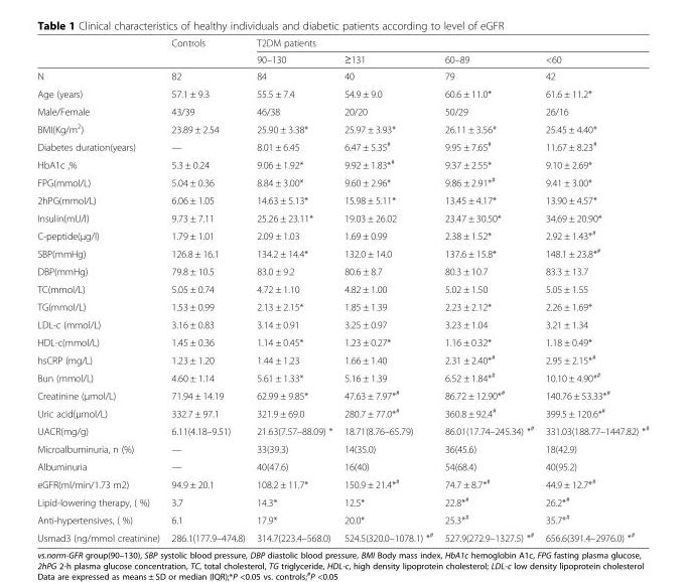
<table><thead><tr><td rowspan="2"></td><td rowspan="2">Controls</td><td colspan="4">T2DM patients</td></tr><tr><td>90–130</td><td>≥131</td><td>60–89</td><td>&lt;60</td></tr></thead><tbody><tr><td>N</td><td>82</td><td>84</td><td>40</td><td>79</td><td>42</td></tr><tr><td>Age (years)</td><td>57.1 ± 9.3</td><td>55.5 ± 7.4</td><td>54.9 ± 9.0</td><td>60.6 ± 11.0*</td><td>61.6 ± 11.2*</td></tr><tr><td>Male/Female</td><td>43/39</td><td>46/38</td><td>20/20</td><td>50/29</td><td>26/16</td></tr><tr><td>BMI(Kg/m<sup>2</sup>)</td><td>23.89 ± 2.54</td><td>25.90 ± 3.38*</td><td>25.97 ± 3.93*</td><td>26.11 ± 3.56*</td><td>25.45 ± 4.40*</td></tr><tr><td>Diabetes duration(years)</td><td>—</td><td>8.01 ± 6.45</td><td>6.47 ± 5.35<sup>#</sup></td><td>9.95 ± 7.65<sup>#</sup></td><td>11.67 ± 8.23<sup>#</sup></td></tr><tr><td>HbA1c ,%</td><td>5.3 ± 0.24</td><td>9.06 ± 1.92*</td><td>9.92 ± 1.83*<sup>#</sup></td><td>9.37 ± 2.55*</td><td>9.10 ± 2.69*</td></tr><tr><td>FPG(mmol/L)</td><td>5.04 ± 0.36</td><td>8.84 ± 3.00*</td><td>9.60 ± 2.96*</td><td>9.86 ± 2.91*<sup>#</sup></td><td>9.41 ± 3.00*</td></tr><tr><td>2hPG(mmol/L)</td><td>6.06 ± 1.05</td><td>14.63 ± 5.13*</td><td>15.98 ± 5.11*</td><td>13.45 ± 4.17*</td><td>13.90 ± 4.57*</td></tr><tr><td>Insulin(mU/l)</td><td>9.73 ± 7.11</td><td>25.26 ± 23.11*</td><td>19.03 ± 26.02</td><td>23.47 ± 30.50*</td><td>34.69 ± 20.90*</td></tr><tr><td>C-peptide(μg/l)</td><td>1.79 ± 1.01</td><td>2.09 ± 1.03</td><td>1.69 ± 0.99</td><td>2.38 ± 1.52*</td><td>2.92 ± 1.43*<sup>#</sup></td></tr><tr><td>SBP(mmHg)</td><td>126.8 ± 16.1</td><td>134.2 ± 14.4*</td><td>132.0 ± 14.0</td><td>137.6 ± 15.8*</td><td>148.1 ± 23.8*<sup>#</sup></td></tr><tr><td>DBP(mmHg)</td><td>79.8 ± 10.5</td><td>83.0 ± 9.2</td><td>80.6 ± 8.7</td><td>80.3 ± 10.7</td><td>83.3 ± 13.7</td></tr><tr><td>TC(mmol/L)</td><td>5.05 ± 0.74</td><td>4.72 ± 1.10</td><td>4.82 ± 1.00</td><td>5.02 ± 1.50</td><td>5.05 ± 1.55</td></tr><tr><td>TG(mmol/L)</td><td>1.53 ± 0.99</td><td>2.13 ± 2.15*</td><td>1.85 ± 1.39</td><td>2.23 ± 2.12*</td><td>2.26 ± 1.69*</td></tr><tr><td>LDL-c (mmol/L)</td><td>3.16 ± 0.83</td><td>3.14 ± 0.91</td><td>3.25 ± 0.97</td><td>3.23 ± 1.04</td><td>3.21 ± 1.34</td></tr><tr><td>HDL-c(mmol/L)</td><td>1.45 ± 0.36</td><td>1.14 ± 0.45*</td><td>1.23 ± 0.27*</td><td>1.16 ± 0.32*</td><td>1.18 ± 0.49*</td></tr><tr><td>hsCRP (mg/L)</td><td>1.23 ± 1.20</td><td>1.44 ± 1.23</td><td>1.66 ± 1.40</td><td>2.31 ± 2.40*<sup>#</sup></td><td>2.95 ± 2.15*<sup>#</sup></td></tr><tr><td>Bun (mmol/L)</td><td>4.60 ± 1.14</td><td>5.61 ± 1.33*</td><td>5.16 ± 1.39</td><td>6.52 ± 1.84*<sup>#</sup></td><td>10.10 ± 4.90*<sup>#</sup></td></tr><tr><td>Creatinine (μmol/L)</td><td>71.94 ± 14.19</td><td>62.99 ± 9.85*</td><td>47.63 ± 7.97*<sup>#</sup></td><td>86.72 ± 12.90*<sup>#</sup></td><td>140.76 ± 53.33*<sup>#</sup></td></tr><tr><td>Uric acid(μmol/L)</td><td>332.7 ± 97.1</td><td>321.9 ± 69.0</td><td>280.7 ± 77.0*<sup>#</sup></td><td>360.8 ± 92.4<sup>#</sup></td><td>399.5 ± 120.6*<sup>#</sup></td></tr><tr><td>UACR(mg/g)</td><td>6.11(4.18–9.51)</td><td>21.63(7.57–88.09) *</td><td>18.71(8.76–65.79)</td><td>86.01(17.74–245.34) *<sup>#</sup></td><td>331.03(188.77–1447.82) *<sup>#</sup></td></tr><tr><td>Microalbuminuria, n (%)</td><td>—</td><td>33(39.3)</td><td>14(35.0)</td><td>36(45.6)</td><td>18(42.9)</td></tr><tr><td>Albuminuria</td><td>—</td><td>40(47.6)</td><td>16(40)</td><td>54(68.4)</td><td>40(95.2)</td></tr><tr><td>eGFR(ml/min/1.73 m2)</td><td>94.9 ± 20.1</td><td>108.2 ± 11.7*</td><td>150.9 ± 21.4*<sup>#</sup></td><td>74.7 ± 8.7*<sup>#</sup></td><td>44.9 ± 12.7*<sup>#</sup></td></tr><tr><td>Lipid-lowering therapy, ( %)</td><td>3.7</td><td>14.3*</td><td>12.5*</td><td>22.8*<sup>#</sup></td><td>26.2*<sup>#</sup></td></tr><tr><td>Anti-hypertensives, ( %)</td><td>6.1</td><td>17.9*</td><td>20.0*</td><td>25.3*<sup>#</sup></td><td>35.7*<sup>#</sup></td></tr><tr><td>Usmad3 (ng/mmol creatinine)</td><td>286.1(177.9–474.8)</td><td>314.7(223.4–568.0)</td><td>524.5(320.0–1078.1) *<sup>#</sup></td><td>527.9(272.9–1327.5) *<sup>#</sup></td><td>656.6(391.4–2976.0) *<sup>#</sup></td></tr></tbody></table>